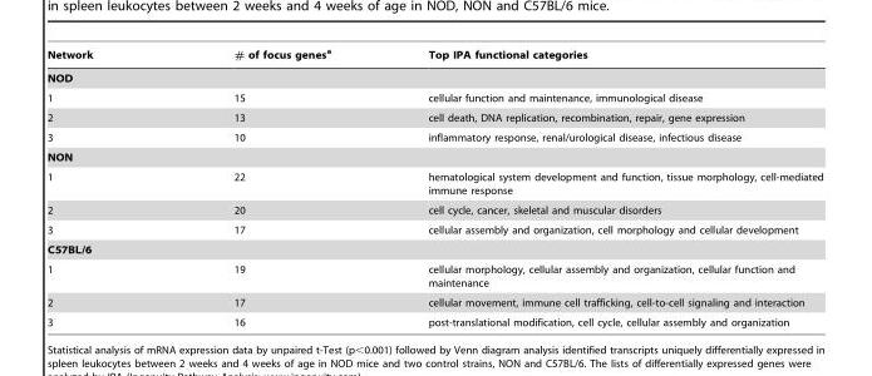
<table><thead><tr><td>Network</td><td># of focus genes<sup>a</sup></td><td>Top IPA functional categories</td></tr></thead><tbody><tr><td colspan="3">NOD</td></tr><tr><td>1</td><td>15</td><td>cellular function and maintenance, immunological disease</td></tr><tr><td>2</td><td>13</td><td>cell death, DNA replication, recombination, repair, gene expression</td></tr><tr><td>3</td><td>10</td><td>inflammatory response, renal/urological disease, infectious disease</td></tr><tr><td colspan="3">NON</td></tr><tr><td>1</td><td>22</td><td>hematological system development and function, tissue morphology, cell-mediated immune response</td></tr><tr><td>2</td><td>20</td><td>cell cycle, cancer, skeletal and muscular disorders</td></tr><tr><td>3</td><td>17</td><td>cellular assembly and organization, cell morphology and cellular development</td></tr><tr><td colspan="3">C57BL/6</td></tr><tr><td>1</td><td>19</td><td>cellular morphology, cellular assembly and organization, cellular function and maintenance</td></tr><tr><td>2</td><td>17</td><td>cellular movement, immune cell trafficking, cell-to-cell signaling and interaction</td></tr><tr><td>3</td><td>16</td><td>post-translational modification, cell cycle, cellular assembly and organization</td></tr></tbody></table>